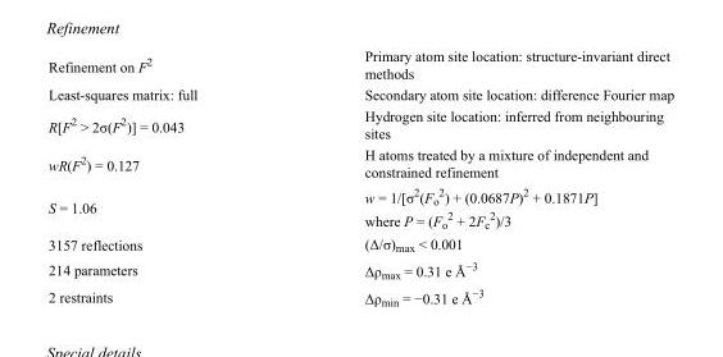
<table><tbody><tr><td>Refinement on F<sup>2</sup></td><td>Primary atom site location: structure-invariant direct methods</td></tr><tr><td>Least-squares matrix: full</td><td>Secondary atom site location: difference Fourier map</td></tr><tr><td>R[F<sup>2</sup> &gt; 2σ(F<sup>2</sup>)] = 0.043</td><td>Hydrogen site location: inferred from neighbouring sites</td></tr><tr><td>wR(F<sup>2</sup>) = 0.127</td><td>H atoms treated by a mixture of independent and constrained refinement</td></tr><tr><td>S = 1.06</td><td>w = 1/[σ<sup>2</sup>(F<sub>o</sub> <sup>2</sup>) + (0.0687P)<sup>2</sup> + 0.1871P] where P = (F<sub>o</sub> <sup>2</sup> + 2F<sub>c</sub> <sup>2</sup>)/3</td></tr><tr><td>3157 reflections</td><td>(Δ/σ)<sub>max</sub> &lt; 0.001</td></tr><tr><td>214 parameters</td><td>Δρ<sub>max</sub> = 0.31 e Å<sup>−3</sup></td></tr><tr><td>2 restraints</td><td>Δρ<sub>min</sub> = −0.31 e Å<sup>−3</sup></td></tr></tbody></table>